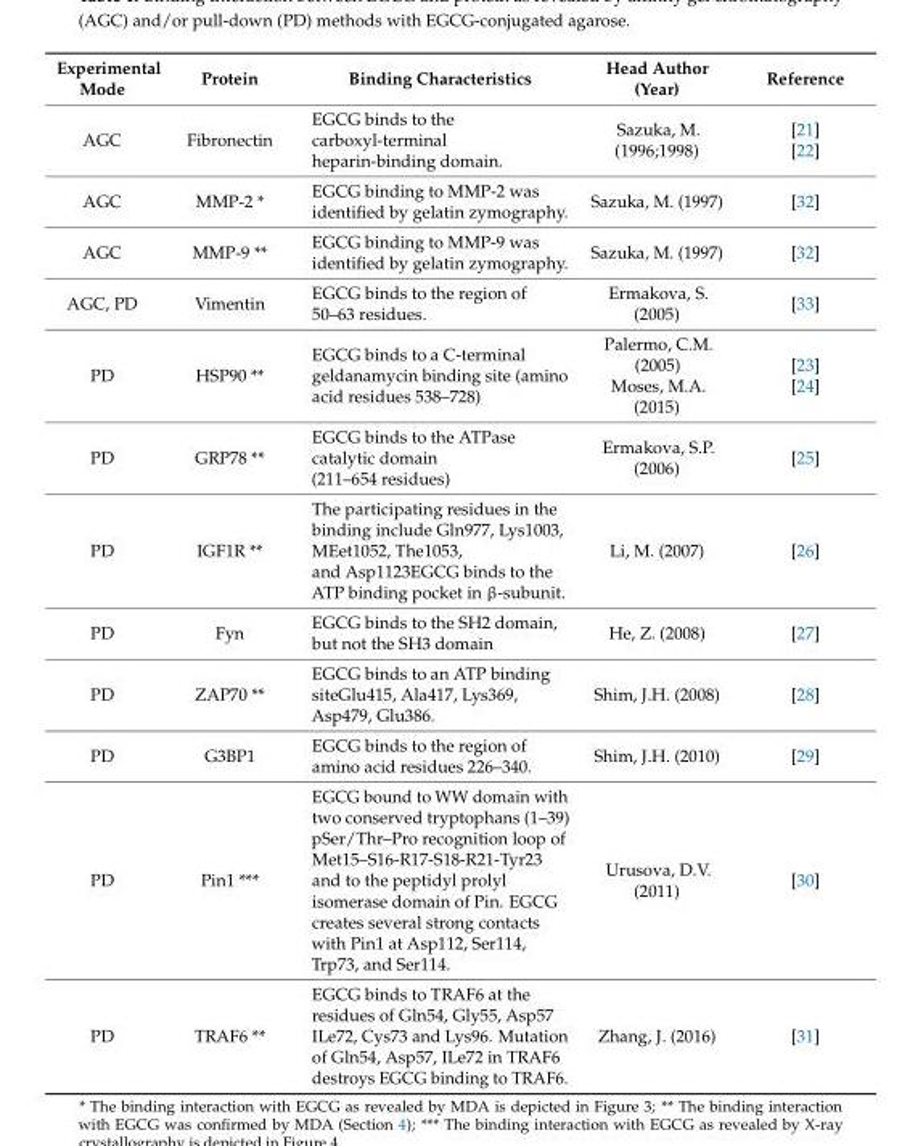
<table><thead><tr><td>Experimental Mode</td><td>Protein</td><td>Binding Characteristics</td><td>Head Author (Year)</td><td>Reference</td></tr></thead><tbody><tr><td>AGC</td><td>Fibronectin</td><td>EGCG binds to the carboxyl-terminal heparin-binding domain.</td><td>Sazuka, M. (1996;1998)</td><td>[21] [22]</td></tr><tr><td>AGC</td><td>MMP-2 *</td><td>EGCG binding to MMP-2 was identified by gelatin zymography.</td><td>Sazuka, M. (1997)</td><td>[32]</td></tr><tr><td>AGC</td><td>MMP-9 **</td><td>EGCG binding to MMP-9 was identified by gelatin zymography.</td><td>Sazuka, M. (1997)</td><td>[32]</td></tr><tr><td>AGC, PD</td><td>Vimentin</td><td>EGCG binds to the region of 50–63 residues.</td><td>Ermakova, S. (2005)</td><td>[33]</td></tr><tr><td>PD</td><td>HSP90 **</td><td>EGCG binds to a C-terminal geldanamycin binding site (amino acid residues 538–728)</td><td>Palermo, C.M. (2005) Moses, M.A. (2015)</td><td>[23] [24]</td></tr><tr><td>PD</td><td>GRP78 **</td><td>EGCG binds to the ATPase catalytic domain (211–654 residues)</td><td>Ermakova, S.P. (2006)</td><td>[25]</td></tr><tr><td>PD</td><td>IGF1R **</td><td>The participating residues in the binding include Gln977, Lys1003, MEet1052, The1053, and Asp1123EGCG binds to the ATP binding pocket in β-subunit.</td><td>Li, M. (2007)</td><td>[26]</td></tr><tr><td>PD</td><td>Fyn</td><td>EGCG binds to the SH2 domain, but not the SH3 domain</td><td>He, Z. (2008)</td><td>[27]</td></tr><tr><td>PD</td><td>ZAP70 **</td><td>EGCG binds to an ATP binding siteGlu415, Ala417, Lys369, Asp479, Glu386.</td><td>Shim, J.H. (2008)</td><td>[28]</td></tr><tr><td>PD</td><td>G3BP1</td><td>EGCG binds to the region of amino acid residues 226–340.</td><td>Shim, J.H. (2010)</td><td>[29]</td></tr><tr><td>PD</td><td>Pin1 ***</td><td>EGCG bound to WW domain with two conserved tryptophans (1–39) pSer/Thr–Pro recognition loop of Met15–S16-R17-S18-R21-Tyr23 and to the peptidyl prolyl isomerase domain of Pin. EGCG creates several strong contacts with Pin1 at Asp112, Ser114, Trp73, and Ser114.</td><td>Urusova, D.V. (2011)</td><td>[30]</td></tr><tr><td>PD</td><td>TRAF6 **</td><td>EGCG binds to TRAF6 at the residues of Gln54, Gly55, Asp57 ILe72, Cys73 and Lys96. Mutation of Gln54, Asp57, ILe72 in TRAF6 destroys EGCG binding to TRAF6.</td><td>Zhang, J. (2016)</td><td>[31]</td></tr></tbody></table>